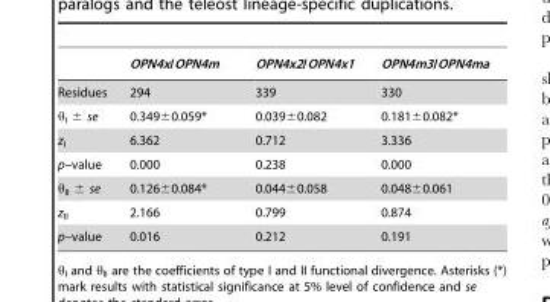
<table><thead><tr><td></td><td>OPN4x/OPN4m</td><td>OPN4x2/OPN4x1</td><td>OPN4m3/OPN4ma</td></tr></thead><tbody><tr><td>Residues</td><td>294</td><td>339</td><td>330</td></tr><tr><td>θ<sub>I</sub> ± se</td><td>0.349±0.059*</td><td>0.039±0.082</td><td>0.181±0.082*</td></tr><tr><td>z<sub>I</sub></td><td>6.362</td><td>0.712</td><td>3.336</td></tr><tr><td>p–value</td><td>0.000</td><td>0.238</td><td>0.000</td></tr><tr><td>θ<sub>II</sub> ± se</td><td>0.126±0.084*</td><td>0.044±0.058</td><td>0.048±0.061</td></tr><tr><td>z<sub>II</sub></td><td>2.166</td><td>0.799</td><td>0.874</td></tr><tr><td>p–value</td><td>0.016</td><td>0.212</td><td>0.191</td></tr></tbody></table>